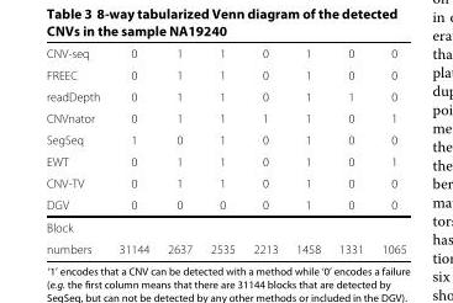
<table><thead><tr><td>CNV-seq</td><td>0</td><td>1</td><td>1</td><td>0</td><td>1</td><td>0</td><td>0</td></tr></thead><tbody><tr><td>FREEC</td><td>0</td><td>1</td><td>1</td><td>0</td><td>1</td><td>0</td><td>0</td></tr><tr><td>readDepth</td><td>0</td><td>1</td><td>1</td><td>0</td><td>1</td><td>1</td><td>0</td></tr><tr><td>CNVnator</td><td>0</td><td>1</td><td>1</td><td>1</td><td>1</td><td>0</td><td>1</td></tr><tr><td>SegSeq</td><td>1</td><td>0</td><td>1</td><td>0</td><td>1</td><td>0</td><td>0</td></tr><tr><td>EWT</td><td>0</td><td>1</td><td>1</td><td>0</td><td>1</td><td>0</td><td>1</td></tr><tr><td>CNV-TV</td><td>0</td><td>1</td><td>1</td><td>0</td><td>1</td><td>0</td><td>0</td></tr><tr><td>DGV</td><td>0</td><td>0</td><td>0</td><td>0</td><td>1</td><td>0</td><td>0</td></tr><tr><td colspan="8">Block</td></tr><tr><td>numbers</td><td>31144</td><td>2637</td><td>2535</td><td>2213</td><td>1458</td><td>1331</td><td>1065</td></tr></tbody></table>